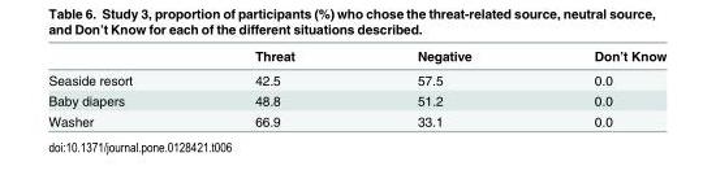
<table><thead><tr><td></td><td>Threat</td><td>Negative</td><td>Don’t Know</td></tr></thead><tbody><tr><td>Seaside resort</td><td>42.5</td><td>57.5</td><td>0.0</td></tr><tr><td>Baby diapers</td><td>48.8</td><td>51.2</td><td>0.0</td></tr><tr><td>Washer</td><td>66.9</td><td>33.1</td><td>0.0</td></tr></tbody></table>